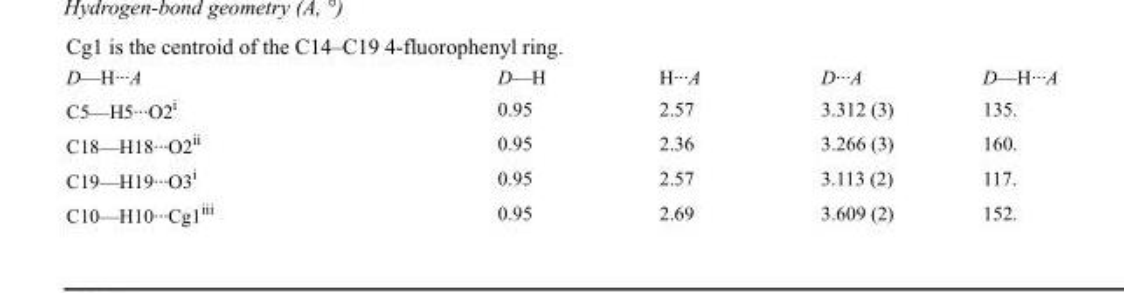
<table><tbody><tr><td>D—H···A</td><td>D—H</td><td>H···A</td><td>D···A</td><td>D—H···A</td></tr><tr><td>C5—H5···O2<sup>i</sup></td><td>0.95</td><td>2.57</td><td>3.312 (3)</td><td>135.</td></tr><tr><td>C18—H18···O2<sup>ii</sup></td><td>0.95</td><td>2.36</td><td>3.266 (3)</td><td>160.</td></tr><tr><td>C19—H19···O3<sup>i</sup></td><td>0.95</td><td>2.57</td><td>3.113 (2)</td><td>117.</td></tr><tr><td>C10—H10···Cg1<sup>iii</sup></td><td>0.95</td><td>2.69</td><td>3.609 (2)</td><td>152.</td></tr></tbody></table>